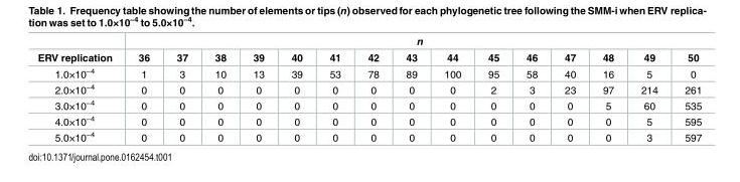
<table><thead><tr><td rowspan="2">ERV replication</td><td colspan="15">n</td></tr><tr><td>36</td><td>37</td><td>38</td><td>39</td><td>40</td><td>41</td><td>42</td><td>43</td><td>44</td><td>45</td><td>46</td><td>47</td><td>48</td><td>49</td><td>50</td></tr></thead><tbody><tr><td>1.0×10<sup>−4</sup></td><td>1</td><td>3</td><td>10</td><td>13</td><td>39</td><td>53</td><td>78</td><td>89</td><td>100</td><td>95</td><td>58</td><td>40</td><td>16</td><td>5</td><td>0</td></tr><tr><td>2.0×10<sup>−4</sup></td><td>0</td><td>0</td><td>0</td><td>0</td><td>0</td><td>0</td><td>0</td><td>0</td><td>0</td><td>2</td><td>3</td><td>23</td><td>97</td><td>214</td><td>261</td></tr><tr><td>3.0×10<sup>−4</sup></td><td>0</td><td>0</td><td>0</td><td>0</td><td>0</td><td>0</td><td>0</td><td>0</td><td>0</td><td>0</td><td>0</td><td>0</td><td>5</td><td>60</td><td>535</td></tr><tr><td>4.0×10<sup>−4</sup></td><td>0</td><td>0</td><td>0</td><td>0</td><td>0</td><td>0</td><td>0</td><td>0</td><td>0</td><td>0</td><td>0</td><td>0</td><td>0</td><td>5</td><td>595</td></tr><tr><td>5.0×10<sup>−4</sup></td><td>0</td><td>0</td><td>0</td><td>0</td><td>0</td><td>0</td><td>0</td><td>0</td><td>0</td><td>0</td><td>0</td><td>0</td><td>0</td><td>3</td><td>597</td></tr></tbody></table>